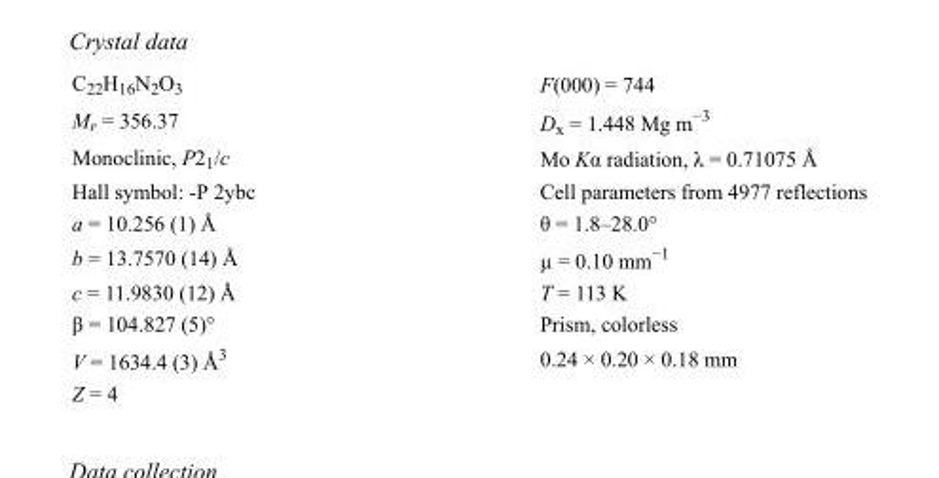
<table><tbody><tr><td>C<sub>22</sub>H<sub>16</sub>N<sub>2</sub>O<sub>3</sub></td><td>F(000) = 744</td></tr><tr><td>M<sub>r</sub> = 356.37</td><td>D<sub>x</sub> = 1.448 Mg m<sup>−3</sup></td></tr><tr><td>Monoclinic, P2<sub>1</sub>/c</td><td>Mo Kα radiation, λ = 0.71075 Å</td></tr><tr><td>Hall symbol: -P 2ybc</td><td>Cell parameters from 4977 reflections</td></tr><tr><td>a = 10.256 (1) Å</td><td>θ = 1.8–28.0°</td></tr><tr><td>b = 13.7570 (14) Å</td><td>µ = 0.10 mm<sup>−1</sup></td></tr><tr><td>c = 11.9830 (12) Å</td><td>T = 113 K</td></tr><tr><td>β = 104.827 (5)°</td><td>Prism, colorless</td></tr><tr><td>V = 1634.4 (3) Å<sup>3</sup></td><td>0.24 × 0.20 × 0.18 mm</td></tr><tr><td>Z = 4</td><td></td></tr></tbody></table>